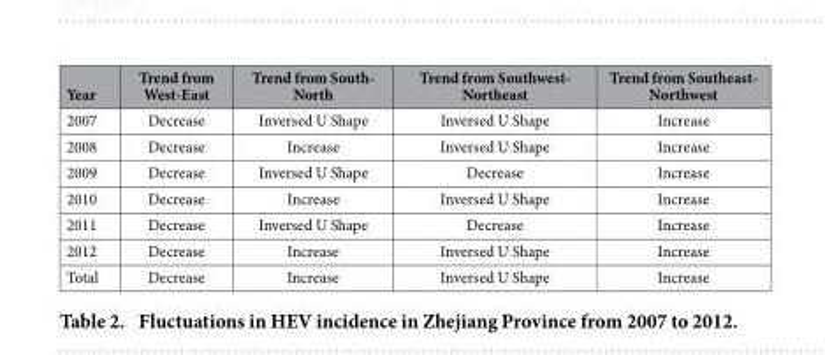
<table><thead><tr><td>Year</td><td>Trend from West-East</td><td>Trend from South- North</td><td>Trend from Southwest- Northeast</td><td>Trend from Southeast- Northwest</td></tr></thead><tbody><tr><td>2007</td><td>Decrease</td><td>Inversed U Shape</td><td>Inversed U Shape</td><td>Increase</td></tr><tr><td>2008</td><td>Decrease</td><td>Increase</td><td>Inversed U Shape</td><td>Increase</td></tr><tr><td>2009</td><td>Decrease</td><td>Inversed U Shape</td><td>Decrease</td><td>Increase</td></tr><tr><td>2010</td><td>Decrease</td><td>Increase</td><td>Inversed U Shape</td><td>Increase</td></tr><tr><td>2011</td><td>Decrease</td><td>Inversed U Shape</td><td>Decrease</td><td>Increase</td></tr><tr><td>2012</td><td>Decrease</td><td>Increase</td><td>Inversed U Shape</td><td>Increase</td></tr><tr><td>Total</td><td>Decrease</td><td>Increase</td><td>Inversed U Shape</td><td>Increase</td></tr></tbody></table>